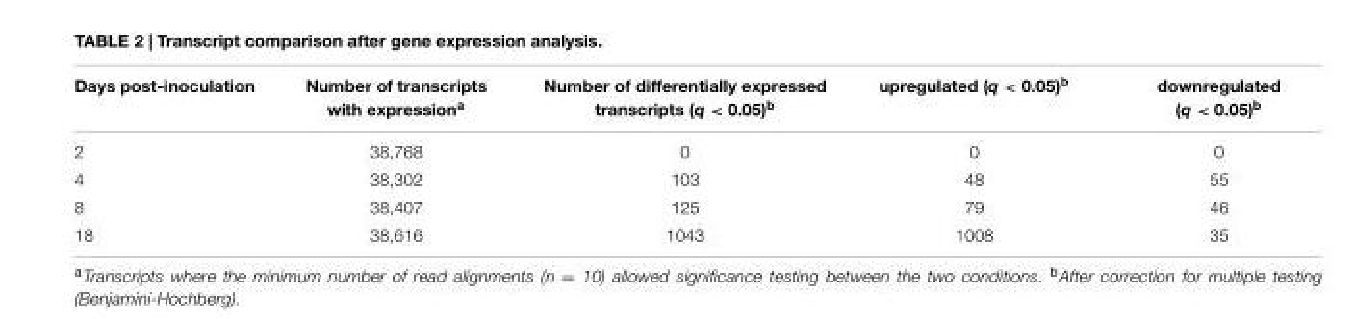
<table><thead><tr><td>Days post-inoculation</td><td>Number of transcripts with expression<sup>a</sup></td><td>Number of differentially expressed transcripts (q &lt; 0.05)<sup>b</sup></td><td>upregulated (q &lt; 0.05)<sup>b</sup></td><td>downregulated (q &lt; 0.05)<sup>b</sup></td></tr></thead><tbody><tr><td>2</td><td>38,768</td><td>0</td><td>0</td><td>0</td></tr><tr><td>4</td><td>38,302</td><td>103</td><td>48</td><td>55</td></tr><tr><td>8</td><td>38,407</td><td>125</td><td>79</td><td>46</td></tr><tr><td>18</td><td>38,616</td><td>1043</td><td>1008</td><td>35</td></tr></tbody></table>